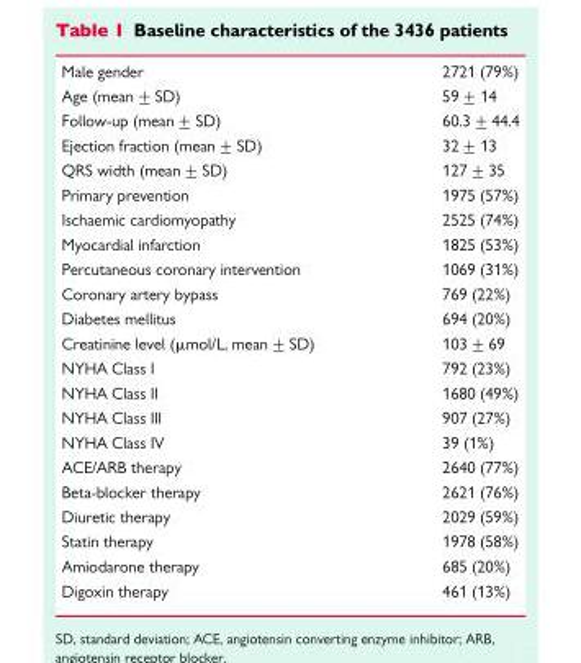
<table><tbody><tr><td>Male gender</td><td>2721 (79%)</td></tr><tr><td>Age (mean+SD)</td><td>59+14</td></tr><tr><td>Follow-up (mean+SD)</td><td>60.3+44.4</td></tr><tr><td>Ejection fraction (mean+SD)</td><td>32+13</td></tr><tr><td>QRS width (mean+SD)</td><td>127+35</td></tr><tr><td>Primary prevention</td><td>1975 (57%)</td></tr><tr><td>Ischaemic cardiomyopathy</td><td>2525 (74%)</td></tr><tr><td>Myocardial infarction</td><td>1825 (53%)</td></tr><tr><td>Percutaneous coronary intervention</td><td>1069 (31%)</td></tr><tr><td>Coronary artery bypass</td><td>769 (22%)</td></tr><tr><td>Diabetes mellitus</td><td>694 (20%)</td></tr><tr><td>Creatinine level (mmol/L, mean+SD)</td><td>103+69</td></tr><tr><td>NYHA Class I</td><td>792 (23%)</td></tr><tr><td>NYHA Class II</td><td>1680 (49%)</td></tr><tr><td>NYHA Class III</td><td>907 (27%)</td></tr><tr><td>NYHA Class IV</td><td>39 (1%)</td></tr><tr><td>ACE/ARB therapy</td><td>2640 (77%)</td></tr><tr><td>Beta-blocker therapy</td><td>2621 (76%)</td></tr><tr><td>Diuretic therapy</td><td>2029 (59%)</td></tr><tr><td>Statin therapy</td><td>1978 (58%)</td></tr><tr><td>Amiodarone therapy</td><td>685 (20%)</td></tr><tr><td>Digoxin therapy</td><td>461 (13%)</td></tr></tbody></table>